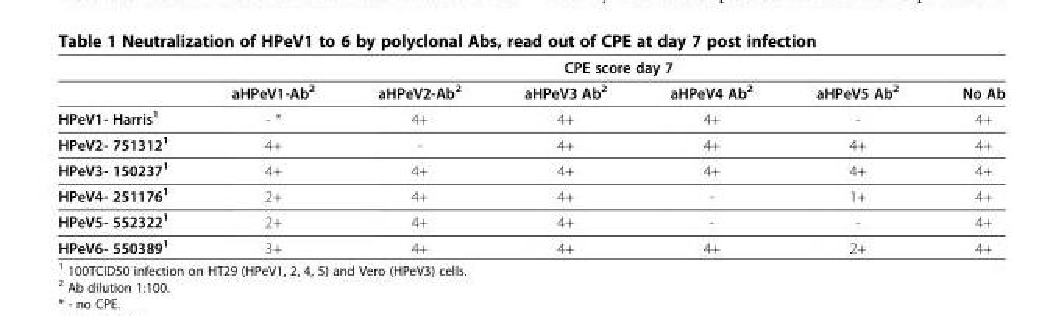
<table><thead><tr><td rowspan="2"></td><td colspan="6">CPE score day 7</td></tr><tr><td>aHPeV1-Ab<sup>2</sup></td><td>aHPeV2-Ab<sup>2</sup></td><td>aHPeV3 Ab<sup>2</sup></td><td>aHPeV4 Ab<sup>2</sup></td><td>aHPeV5 Ab<sup>2</sup></td><td>No Ab</td></tr></thead><tbody><tr><td>HPeV1- Harris<sup>1</sup></td><td>- *</td><td>4+</td><td>4+</td><td>4+</td><td>-</td><td>4+</td></tr><tr><td>HPeV2- 751312<sup>1</sup></td><td>4+</td><td>-</td><td>4+</td><td>4+</td><td>4+</td><td>4+</td></tr><tr><td>HPeV3- 150237<sup>1</sup></td><td>4+</td><td>4+</td><td>4+</td><td>4+</td><td>4+</td><td>4+</td></tr><tr><td>HPeV4- 251176<sup>1</sup></td><td>2+</td><td>4+</td><td>4+</td><td>-</td><td>1+</td><td>4+</td></tr><tr><td>HPeV5- 552322<sup>1</sup></td><td>2+</td><td>4+</td><td>4+</td><td>-</td><td>-</td><td>4+</td></tr><tr><td>HPeV6- 550389<sup>1</sup></td><td>3+</td><td>4+</td><td>4+</td><td>4+</td><td>2+</td><td>4+</td></tr></tbody></table>